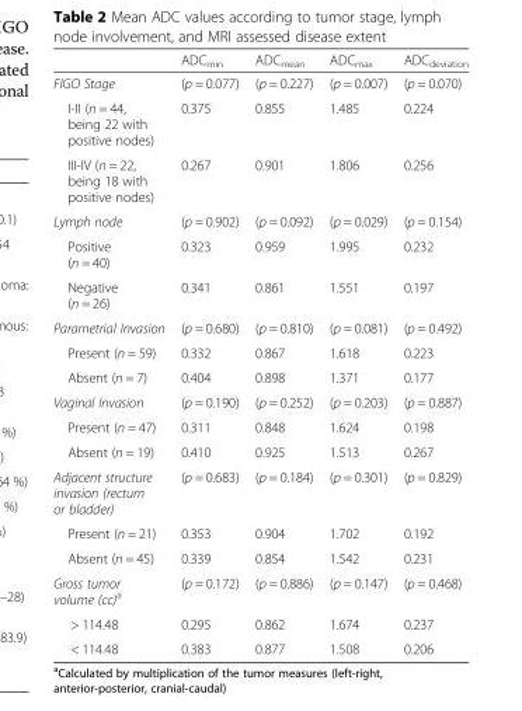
<table><thead><tr><td></td><td>ADC<sub>min</sub></td><td>ADC<sub>mean</sub></td><td>ADC<sub>max</sub></td><td>ADC<sub>deviation</sub></td></tr></thead><tbody><tr><td>FIGO Stage</td><td>(p = 0.077)</td><td>(p = 0.227)</td><td>(p = 0.007)</td><td>(p = 0.070)</td></tr><tr><td>I-II (n = 44, being 22 with positive nodes)</td><td>0.375</td><td>0.855</td><td>1.485</td><td>0.224</td></tr><tr><td>III-IV (n = 22, being 18 with positive nodes)</td><td>0.267</td><td>0.901</td><td>1.806</td><td>0.256</td></tr><tr><td>Lymph node</td><td>(p = 0.902)</td><td>(p = 0.092)</td><td>(p = 0.029)</td><td>(p = 0.154)</td></tr><tr><td>Positive (n = 40)</td><td>0.323</td><td>0.959</td><td>1.995</td><td>0.232</td></tr><tr><td>Negative (n = 26)</td><td>0.341</td><td>0.861</td><td>1.551</td><td>0.197</td></tr><tr><td>Parametrial Invasion</td><td>(p = 0.680)</td><td>(p = 0.810)</td><td>(p = 0.081)</td><td>(p = 0.492)</td></tr><tr><td>Present (n = 59)</td><td>0.332</td><td>0.867</td><td>1.618</td><td>0.223</td></tr><tr><td>Absent (n = 7)</td><td>0.404</td><td>0.898</td><td>1.371</td><td>0.177</td></tr><tr><td>Vaginal Invasion</td><td>(p = 0.190)</td><td>(p = 0.252)</td><td>(p = 0.203)</td><td>(p = 0.887)</td></tr><tr><td>Present (n = 47)</td><td>0.311</td><td>0.848</td><td>1.624</td><td>0.198</td></tr><tr><td>Absent (n = 19)</td><td>0.410</td><td>0.925</td><td>1.513</td><td>0.267</td></tr><tr><td>Adjacent structure invasion (rectum or bladder)</td><td>(p = 0.683)</td><td>(p = 0.184)</td><td>(p = 0.301)</td><td>(p = 0.829)</td></tr><tr><td>Present (n = 21)</td><td>0.353</td><td>0.904</td><td>1.702</td><td>0.192</td></tr><tr><td>Absent (n = 45)</td><td>0.339</td><td>0.854</td><td>1.542</td><td>0.231</td></tr><tr><td>Gross tumor volume (cc)<sup>a</sup></td><td>(p = 0.172)</td><td>(p = 0.886)</td><td>(p = 0.147)</td><td>(p = 0.468)</td></tr><tr><td>&gt; 114.48</td><td>0.295</td><td>0.862</td><td>1.674</td><td>0.237</td></tr><tr><td>&lt; 114.48</td><td>0.383</td><td>0.877</td><td>1.508</td><td>0.206</td></tr></tbody></table>